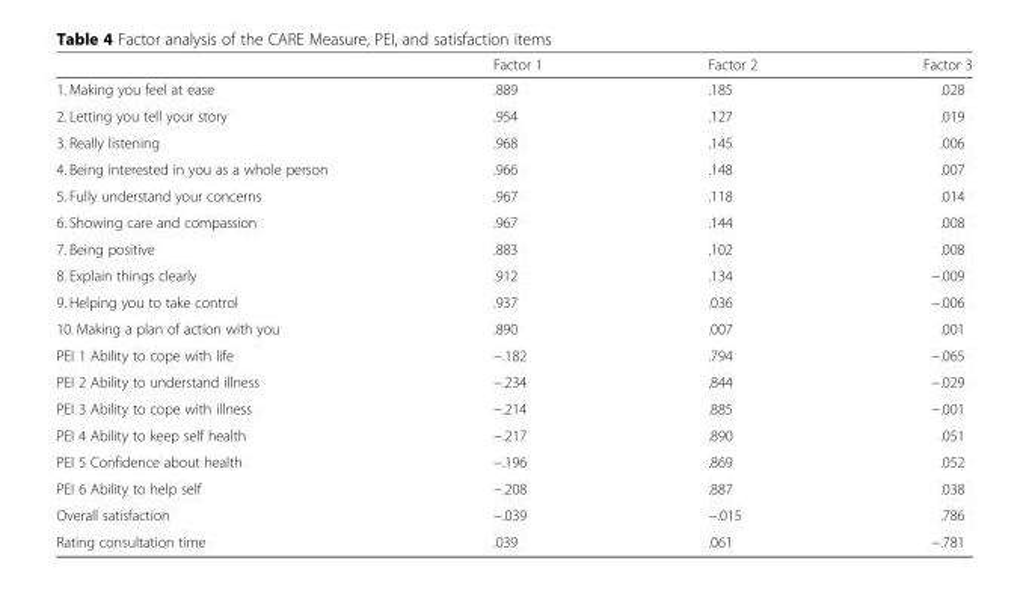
<table><thead><tr><td></td><td>Factor 1</td><td>Factor 2</td><td>Factor 3</td></tr></thead><tbody><tr><td>1. Making you feel at ease</td><td>.889</td><td>.185</td><td>.028</td></tr><tr><td>2. Letting you tell your story</td><td>.954</td><td>.127</td><td>.019</td></tr><tr><td>3. Really listening</td><td>.968</td><td>.145</td><td>.006</td></tr><tr><td>4. Being interested in you as a whole person</td><td>.966</td><td>.148</td><td>.007</td></tr><tr><td>5. Fully understand your concerns</td><td>.967</td><td>.118</td><td>.014</td></tr><tr><td>6. Showing care and compassion</td><td>.967</td><td>.144</td><td>.008</td></tr><tr><td>7. Being positive</td><td>.883</td><td>.102</td><td>.008</td></tr><tr><td>8. Explain things clearly</td><td>.912</td><td>.134</td><td>−.009</td></tr><tr><td>9. Helping you to take control</td><td>.937</td><td>.036</td><td>−.006</td></tr><tr><td>10. Making a plan of action with you</td><td>.890</td><td>.007</td><td>.001</td></tr><tr><td>PEI 1 Ability to cope with life</td><td>−.182</td><td>.794</td><td>−.065</td></tr><tr><td>PEI 2 Ability to understand illness</td><td>−.234</td><td>.844</td><td>−.029</td></tr><tr><td>PEI 3 Ability to cope with illness</td><td>−.214</td><td>.885</td><td>−.001</td></tr><tr><td>PEI 4 Ability to keep self health</td><td>−.217</td><td>.890</td><td>.051</td></tr><tr><td>PEI 5 Confidence about health</td><td>−.196</td><td>.869</td><td>.052</td></tr><tr><td>PEI 6 Ability to help self</td><td>−.208</td><td>.887</td><td>.038</td></tr><tr><td>Overall satisfaction</td><td>−.039</td><td>−.015</td><td>.786</td></tr><tr><td>Rating consultation time</td><td>.039</td><td>.061</td><td>−.781</td></tr></tbody></table>